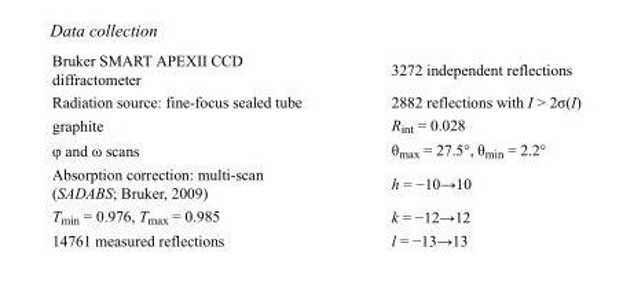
<table><tbody><tr><td>Bruker SMART APEXII CCD diffractometer</td><td>3272 independent reflections</td></tr><tr><td>Radiation source: fine-focus sealed tube</td><td>2882 reflections with I &gt; 2σ(I)</td></tr><tr><td>graphite</td><td>R<sub>int</sub> = 0.028</td></tr><tr><td>φ and ω scans</td><td>θ<sub>max</sub> = 27.5°, θ<sub>min</sub> = 2.2°</td></tr><tr><td>Absorption correction: multi-scan (SADABS; Bruker, 2009)</td><td>h = −10→10</td></tr><tr><td>T<sub>min</sub> = 0.976, T<sub>max</sub> = 0.985</td><td>k = −12→12</td></tr><tr><td>14761 measured reflections</td><td>l = −13→13</td></tr></tbody></table>